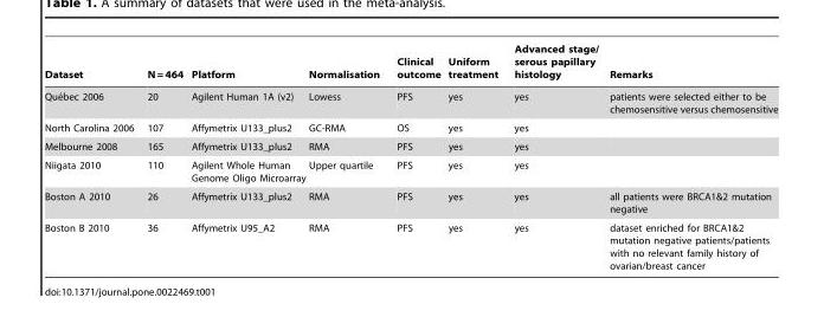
<table><thead><tr><td>Dataset</td><td>N = 464</td><td>Platform</td><td>Normalisation</td><td>Clinical outcome</td><td>Uniform treatment</td><td>Advanced stage/ serous papillary histology</td><td>Remarks</td></tr></thead><tbody><tr><td>Que´bec 2006</td><td>20</td><td>Agilent Human 1A (v2)</td><td>Lowess</td><td>PFS</td><td>yes</td><td>yes</td><td>patients were selected either to be chemosensitive versus chemosensitive</td></tr><tr><td>North Carolina 2006</td><td>107</td><td>Affymetrix U133_plus2</td><td>GC-RMA</td><td>OS</td><td>yes</td><td>yes</td><td></td></tr><tr><td>Melbourne 2008</td><td>165</td><td>Affymetrix U133_plus2</td><td>RMA</td><td>PFS</td><td>yes</td><td>yes</td><td></td></tr><tr><td>Niigata 2010</td><td>110</td><td>Agilent Whole Human Genome Oligo Microarray</td><td>Upper quartile</td><td>PFS</td><td>yes</td><td>yes</td><td></td></tr><tr><td>Boston A 2010</td><td>26</td><td>Affymetrix U133_plus2</td><td>RMA</td><td>PFS</td><td>yes</td><td>yes</td><td>all patients were BRCA1&amp;2 mutation negative</td></tr><tr><td>Boston B 2010</td><td>36</td><td>Affymetrix U95_A2</td><td>RMA</td><td>PFS</td><td>yes</td><td>yes</td><td>dataset enriched for BRCA1&amp;2 mutation negative patients/patients with no relevant family history of ovarian/breast cancer</td></tr></tbody></table>